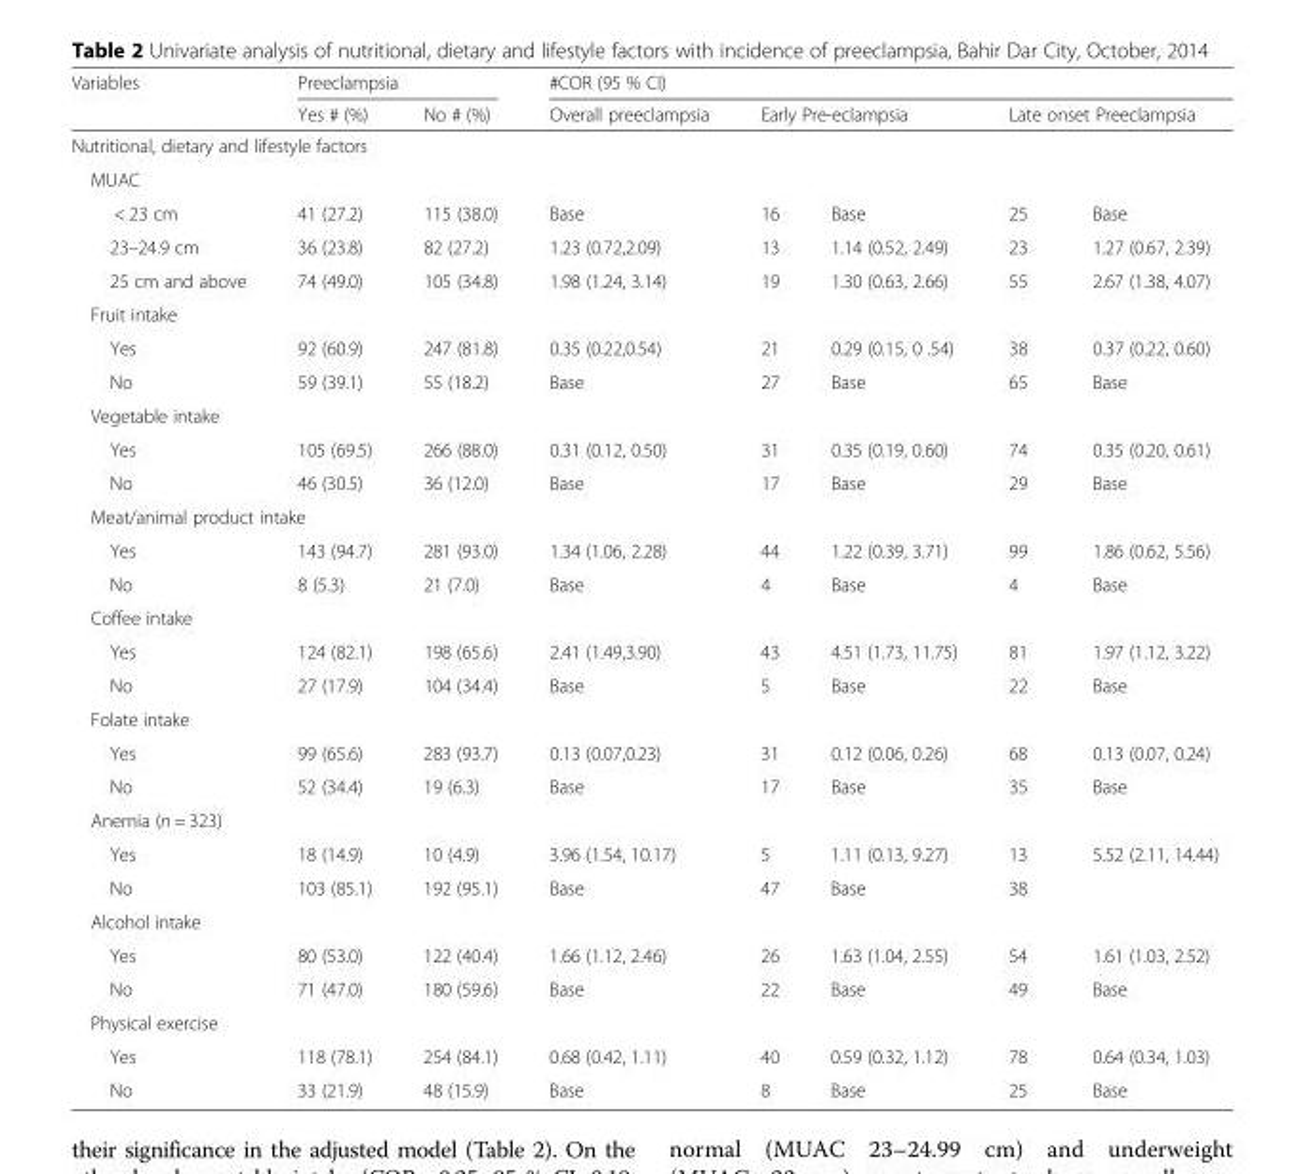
<table><thead><tr><td rowspan="2">Variables</td><td colspan="2">Preeclampsia</td><td colspan="5">#COR (95 % CI)</td></tr><tr><td>Yes # (%)</td><td>No # (%)</td><td>Overall preeclampsia</td><td colspan="2">Early Pre-eclampsia</td><td colspan="2">Late onset Preeclampsia</td></tr><tr><td rowspan="2" colspan="8">Nutritional, dietary and lifestyle factors MUAC</td></tr><tr></tr><tr><td>&lt; 23 cm</td><td>41 (27.2)</td><td>115 (38.0)</td><td>Base</td><td>16</td><td>Base</td><td>25</td><td>Base</td></tr></thead><tbody><tr><td>23–24.9 cm</td><td>36 (23.8)</td><td>82 (27.2)</td><td>1.23 (0.72,2.09)</td><td>13</td><td>1.14 (0.52, 2.49)</td><td>23</td><td>1.27 (0.67, 2.39)</td></tr><tr><td>25 cm and above</td><td>74 (49.0)</td><td>105 (34.8)</td><td>1.98 (1.24, 3.14)</td><td>19</td><td>1.30 (0.63, 2.66)</td><td>55</td><td>2.67 (1.38, 4.07)</td></tr><tr><td colspan="8">Fruit intake</td></tr><tr><td>Yes</td><td>92 (60.9)</td><td>247 (81.8)</td><td>0.35 (0.22,0.54)</td><td>21</td><td>0.29 (0.15, 0 .54)</td><td>38</td><td>0.37 (0.22, 0.60)</td></tr><tr><td>No</td><td>59 (39.1)</td><td>55 (18.2)</td><td>Base</td><td>27</td><td>Base</td><td>65</td><td>Base</td></tr><tr><td colspan="8">Vegetable intake</td></tr><tr><td>Yes</td><td>105 (69.5)</td><td>266 (88.0)</td><td>0.31 (0.12, 0.50)</td><td>31</td><td>0.35 (0.19, 0.60)</td><td>74</td><td>0.35 (0.20, 0.61)</td></tr><tr><td>No</td><td>46 (30.5)</td><td>36 (12.0)</td><td>Base</td><td>17</td><td>Base</td><td>29</td><td>Base</td></tr><tr><td colspan="8">Meat/animal product intake</td></tr><tr><td>Yes</td><td>143 (94.7)</td><td>281 (93.0)</td><td>1.34 (1.06, 2.28)</td><td>44</td><td>1.22 (0.39, 3.71)</td><td>99</td><td>1.86 (0.62, 5.56)</td></tr><tr><td>No</td><td>8 (5.3)</td><td>21 (7.0)</td><td>Base</td><td>4</td><td>Base</td><td>4</td><td>Base</td></tr><tr><td colspan="8">Coffee intake</td></tr><tr><td>Yes</td><td>124 (82.1)</td><td>198 (65.6)</td><td>2.41 (1.49,3.90)</td><td>43</td><td>4.51 (1.73, 11.75)</td><td>81</td><td>1.97 (1.12, 3.22)</td></tr><tr><td>No</td><td>27 (17.9)</td><td>104 (34.4)</td><td>Base</td><td>5</td><td>Base</td><td>22</td><td>Base</td></tr><tr><td colspan="8">Folate intake</td></tr><tr><td>Yes</td><td>99 (65.6)</td><td>283 (93.7)</td><td>0.13 (0.07,0.23)</td><td>31</td><td>0.12 (0.06, 0.26)</td><td>68</td><td>0.13 (0.07, 0.24)</td></tr><tr><td>No</td><td>52 (34.4)</td><td>19 (6.3)</td><td>Base</td><td>17</td><td>Base</td><td>35</td><td>Base</td></tr><tr><td colspan="8">Anemia (n = 323)</td></tr><tr><td>Yes</td><td>18 (14.9)</td><td>10 (4.9)</td><td>3.96 (1.54, 10.17)</td><td>5</td><td>1.11 (0.13, 9.27)</td><td>13</td><td>5.52 (2.11, 14.44)</td></tr><tr><td>No</td><td>103 (85.1)</td><td>192 (95.1)</td><td>Base</td><td>47</td><td>Base</td><td>38</td><td></td></tr><tr><td colspan="8">Alcohol intake</td></tr><tr><td>Yes</td><td>80 (53.0)</td><td>122 (40.4)</td><td>1.66 (1.12, 2.46)</td><td>26</td><td>1.63 (1.04, 2.55)</td><td>54</td><td>1.61 (1.03, 2.52)</td></tr><tr><td>No</td><td>71 (47.0)</td><td>180 (59.6)</td><td>Base</td><td>22</td><td>Base</td><td>49</td><td>Base</td></tr><tr><td colspan="8">Physical exercise</td></tr><tr><td>Yes</td><td>118 (78.1)</td><td>254 (84.1)</td><td>0.68 (0.42, 1.11)</td><td>40</td><td>0.59 (0.32, 1.12)</td><td>78</td><td>0.64 (0.34, 1.03)</td></tr><tr><td>No</td><td>33 (21.9)</td><td>48 (15.9)</td><td>Base</td><td>8</td><td>Base</td><td>25</td><td>Base</td></tr></tbody></table>